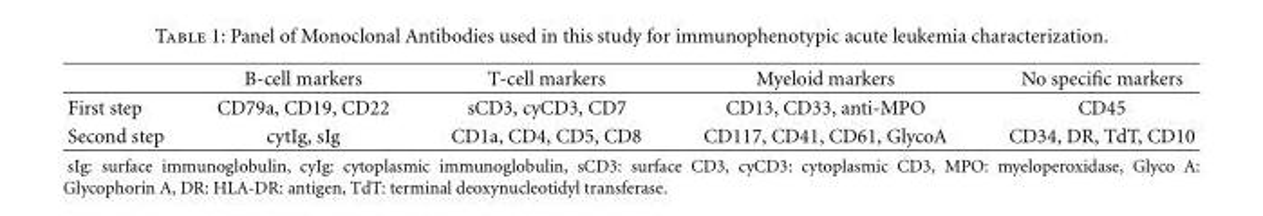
<table><thead><tr><td></td><td>B-cell markers</td><td>T-cell markers</td><td>Myeloid markers</td><td>No specific markers</td></tr></thead><tbody><tr><td>First step</td><td>CD79a, CD19, CD22</td><td>sCD3, cyCD3, CD7</td><td>CD13, CD33, anti-MPO</td><td>CD45</td></tr><tr><td>Second step</td><td>cytIg, sIg</td><td>CD1a, CD4, CD5, CD8</td><td>CD117, CD41, CD61, GlycoA</td><td>CD34, DR, TdT, CD10</td></tr></tbody></table>